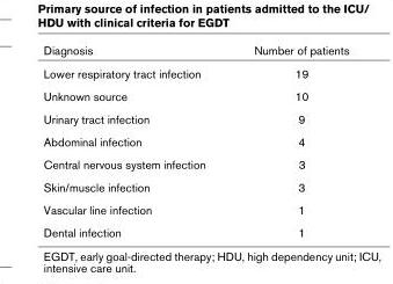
<table><thead><tr><td>Diagnosis</td><td>Number of patients</td></tr></thead><tbody><tr><td>Lower respiratory tract infection</td><td>19</td></tr><tr><td>Unknown source</td><td>10</td></tr><tr><td>Urinary tract infection</td><td>9</td></tr><tr><td>Abdominal infection</td><td>4</td></tr><tr><td>Central nervous system infection</td><td>3</td></tr><tr><td>Skin/muscle infection</td><td>3</td></tr><tr><td>Vascular line infection</td><td>1</td></tr><tr><td>Dental infection</td><td>1</td></tr></tbody></table>